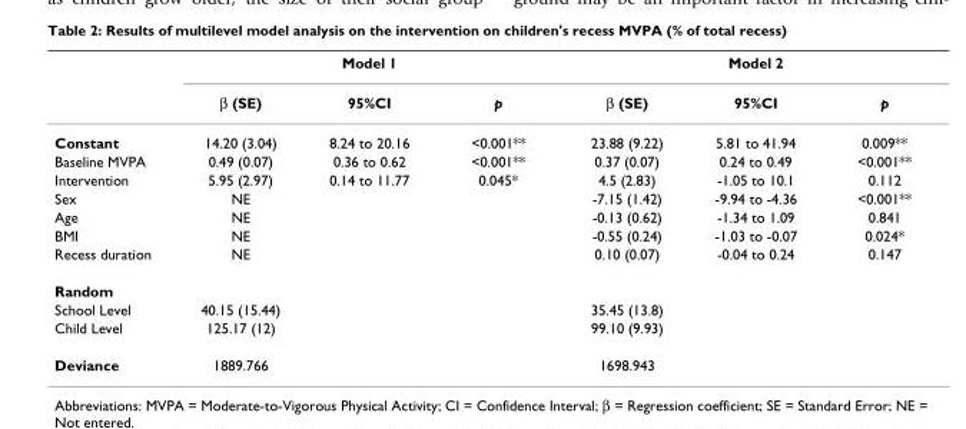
<table><thead><tr><td rowspan="2"></td><td colspan="3">Model 1</td><td colspan="3">Model 2</td></tr><tr><td>β (SE)</td><td>95%CI</td><td>p</td><td>β (SE)</td><td>95%CI</td><td>p</td></tr></thead><tbody><tr><td>Constant</td><td>14.20 (3.04)</td><td>8.24 to 20.16</td><td>&lt;0.001**</td><td>23.88 (9.22)</td><td>5.81 to 41.94</td><td>0.009**</td></tr><tr><td>Baseline MVPA</td><td>0.49 (0.07)</td><td>0.36 to 0.62</td><td>&lt;0.001**</td><td>0.37 (0.07)</td><td>0.24 to 0.49</td><td>&lt;0.001**</td></tr><tr><td>Intervention</td><td>5.95 (2.97)</td><td>0.14 to 11.77</td><td>0.045*</td><td>4.5 (2.83)</td><td>-1.05 to 10.1</td><td>0.112</td></tr><tr><td>Sex</td><td>NE</td><td></td><td></td><td>-7.15 (1.42)</td><td>-9.94 to -4.36</td><td>&lt;0.001**</td></tr><tr><td>Age</td><td>NE</td><td></td><td></td><td>-0.13 (0.62)</td><td>-1.34 to 1.09</td><td>0.841</td></tr><tr><td>BMI</td><td>NE</td><td></td><td></td><td>-0.55 (0.24)</td><td>-1.03 to -0.07</td><td>0.024*</td></tr><tr><td>Recess duration</td><td>NE</td><td></td><td></td><td>0.10 (0.07)</td><td>-0.04 to 0.24</td><td>0.147</td></tr><tr><td colspan="7">Random</td></tr><tr><td>School Level</td><td>40.15 (15.44)</td><td></td><td></td><td>35.45 (13.8)</td><td></td><td></td></tr><tr><td>Child Level</td><td>125.17 (12)</td><td></td><td></td><td>99.10 (9.93)</td><td></td><td></td></tr><tr><td>Deviance</td><td>1889.766</td><td></td><td></td><td>1698.943</td><td></td><td></td></tr></tbody></table>